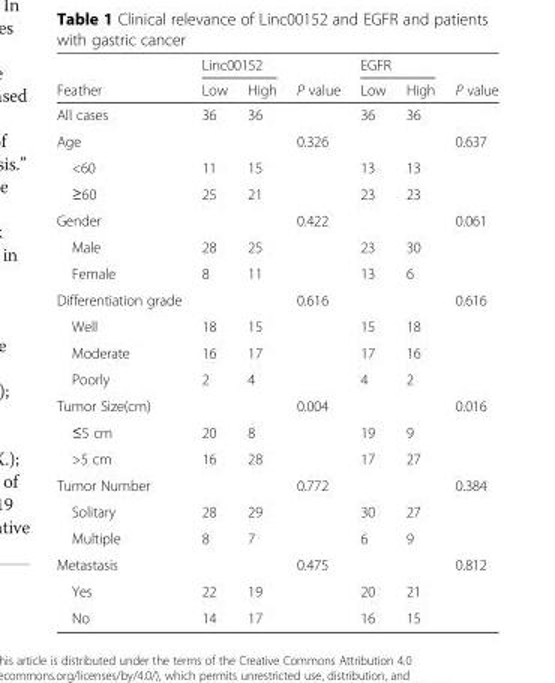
<table><thead><tr><td rowspan="2">Feather</td><td colspan="2">Linc00152</td><td rowspan="2">P value</td><td colspan="2">EGFR</td><td rowspan="2">P value</td></tr><tr><td>Low</td><td>High</td><td>Low</td><td>High</td></tr></thead><tbody><tr><td>All cases</td><td>36</td><td>36</td><td></td><td>36</td><td>36</td><td></td></tr><tr><td>Age</td><td></td><td></td><td>0.326</td><td></td><td></td><td>0.637</td></tr><tr><td>&lt;60</td><td>11</td><td>15</td><td></td><td>13</td><td>13</td><td></td></tr><tr><td>≥60</td><td>25</td><td>21</td><td></td><td>23</td><td>23</td><td></td></tr><tr><td>Gender</td><td></td><td></td><td>0.422</td><td></td><td></td><td>0.061</td></tr><tr><td>Male</td><td>28</td><td>25</td><td></td><td>23</td><td>30</td><td></td></tr><tr><td>Female</td><td>8</td><td>11</td><td></td><td>13</td><td>6</td><td></td></tr><tr><td>Differentiation grade</td><td></td><td></td><td>0.616</td><td></td><td></td><td>0.616</td></tr><tr><td>Well</td><td>18</td><td>15</td><td></td><td>15</td><td>18</td><td></td></tr><tr><td>Moderate</td><td>16</td><td>17</td><td></td><td>17</td><td>16</td><td></td></tr><tr><td>Poorly</td><td>2</td><td>4</td><td></td><td>4</td><td>2</td><td></td></tr><tr><td>Tumor Size(cm)</td><td></td><td></td><td>0.004</td><td></td><td></td><td>0.016</td></tr><tr><td>≤5 cm</td><td>20</td><td>8</td><td></td><td>19</td><td>9</td><td></td></tr><tr><td>&gt;5 cm</td><td>16</td><td>28</td><td></td><td>17</td><td>27</td><td></td></tr><tr><td>Tumor Number</td><td></td><td></td><td>0.772</td><td></td><td></td><td>0.384</td></tr><tr><td>Solitary</td><td>28</td><td>29</td><td></td><td>30</td><td>27</td><td></td></tr><tr><td>Multiple</td><td>8</td><td>7</td><td></td><td>6</td><td>9</td><td></td></tr><tr><td>Metastasis</td><td></td><td></td><td>0.475</td><td></td><td></td><td>0.812</td></tr><tr><td>Yes</td><td>22</td><td>19</td><td></td><td>20</td><td>21</td><td></td></tr><tr><td>No</td><td>14</td><td>17</td><td></td><td>16</td><td>15</td><td></td></tr></tbody></table>